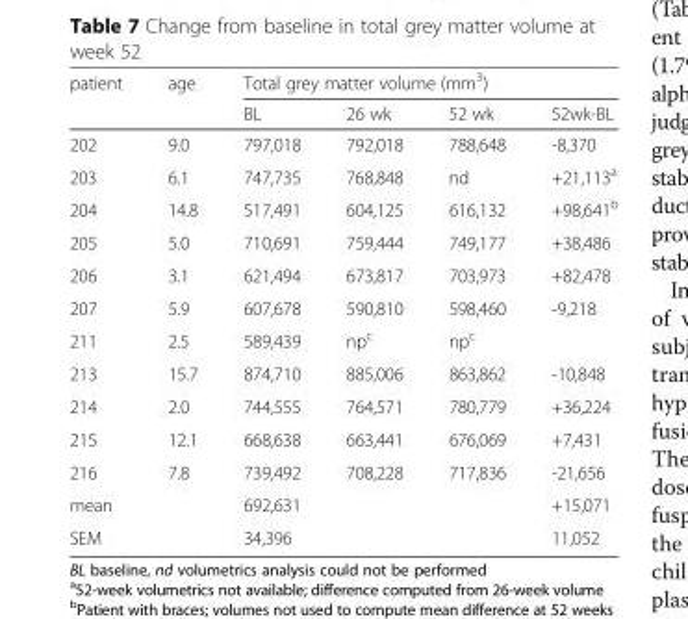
<table><thead><tr><td rowspan="2">patient</td><td rowspan="2">age</td><td colspan="4">Total grey matter volume (mm<sup>3</sup>)</td></tr><tr><td>BL</td><td>26 wk</td><td>52 wk</td><td>52wk-BL</td></tr></thead><tbody><tr><td>202</td><td>9.0</td><td>797,018</td><td>792,018</td><td>788,648</td><td>-8,370</td></tr><tr><td>203</td><td>6.1</td><td>747,735</td><td>768,848</td><td>nd</td><td>+21,113<sup>a</sup></td></tr><tr><td>204</td><td>14.8</td><td>517,491</td><td>604,125</td><td>616,132</td><td>+98,641<sup>b</sup></td></tr><tr><td>205</td><td>5.0</td><td>710,691</td><td>759,444</td><td>749,177</td><td>+38,486</td></tr><tr><td>206</td><td>3.1</td><td>621,494</td><td>673,817</td><td>703,973</td><td>+82,478</td></tr><tr><td>207</td><td>5.9</td><td>607,678</td><td>590,810</td><td>598,460</td><td>-9,218</td></tr><tr><td>211</td><td>2.5</td><td>589,439</td><td>np<sup>c</sup></td><td>np<sup>c</sup></td><td></td></tr><tr><td>213</td><td>15.7</td><td>874,710</td><td>885,006</td><td>863,862</td><td>-10,848</td></tr><tr><td>214</td><td>2.0</td><td>744,555</td><td>764,571</td><td>780,779</td><td>+36,224</td></tr><tr><td>215</td><td>12.1</td><td>668,638</td><td>663,441</td><td>676,069</td><td>+7,431</td></tr><tr><td>216</td><td>7.8</td><td>739,492</td><td>708,228</td><td>717,836</td><td>-21,656</td></tr><tr><td>mean</td><td></td><td>692,631</td><td></td><td></td><td>+15,071</td></tr><tr><td>SEM</td><td></td><td>34,396</td><td></td><td></td><td>11,052</td></tr></tbody></table>